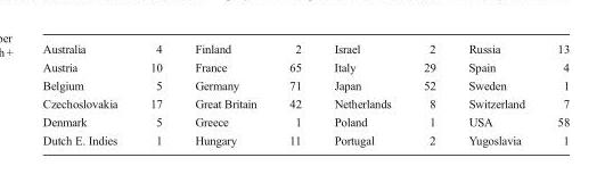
<table><tbody><tr><td>Australia</td><td>4</td><td>Finland</td><td>2</td><td>Israel</td><td>2</td><td>Russia</td><td>13</td></tr><tr><td>Austria</td><td>10</td><td>France</td><td>65</td><td>Italy</td><td>29</td><td>Spain</td><td>4</td></tr><tr><td>Belgium</td><td>5</td><td>Germany</td><td>71</td><td>Japan</td><td>52</td><td>Sweden</td><td>1</td></tr><tr><td>Czechoslovakia</td><td>17</td><td>Great Britain</td><td>42</td><td>Netherlands</td><td>8</td><td>Switzerland</td><td>7</td></tr><tr><td>Denmark</td><td>5</td><td>Greece</td><td>1</td><td>Poland</td><td>1</td><td>USA</td><td>58</td></tr><tr><td>Dutch E. Indies</td><td>1</td><td>Hungary</td><td>11</td><td>Portugal</td><td>2</td><td>Yugoslavia</td><td>1</td></tr></tbody></table>